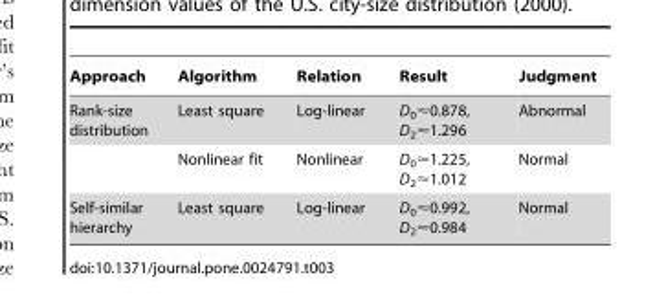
<table><thead><tr><td>Approach</td><td>Algorithm</td><td>Relation</td><td>Result</td><td>Judgment</td></tr></thead><tbody><tr><td rowspan="2">Rank-size distribution</td><td>Least square</td><td>Log-linear</td><td>D0&lt;0.878, D2&lt;1.296</td><td>Abnormal</td></tr><tr><td>Nonlinear fit</td><td>Nonlinear</td><td>D0&lt;1.225, D2&lt;1.012</td><td>Normal</td></tr><tr><td>Self-similar hierarchy</td><td>Least square</td><td>Log-linear</td><td>D0&lt;0.992, D2&lt;0.984</td><td>Normal</td></tr></tbody></table>